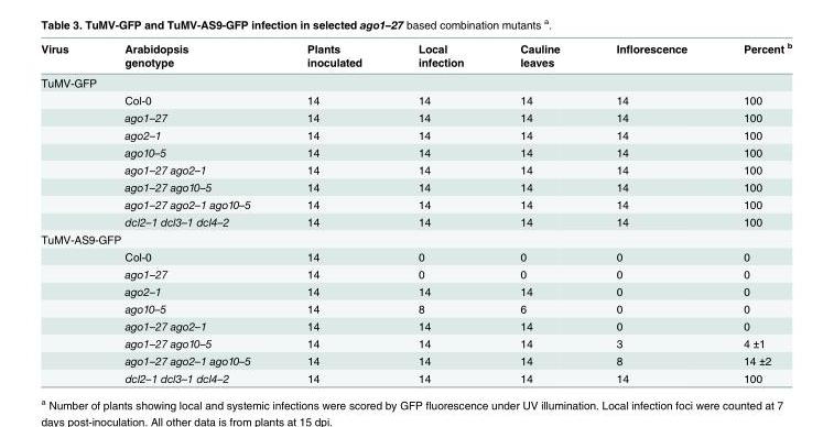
<table><thead><tr><td rowspan="2">Virus</td><td rowspan="2">Arabidopsis genotype</td><td rowspan="2">Plants inoculated</td><td rowspan="2">Local infection</td><td rowspan="2">Cauline leaves</td><td rowspan="2">Inflorescence</td><td rowspan="2">Percent <sup>b</sup></td></tr><tr></tr></thead><tbody><tr><td colspan="7">TuMV-GFP</td></tr><tr><td></td><td>Col-0</td><td>14</td><td>14</td><td>14</td><td>14</td><td>100</td></tr><tr><td></td><td>ago1–27</td><td>14</td><td>14</td><td>14</td><td>14</td><td>100</td></tr><tr><td></td><td>ago2–1</td><td>14</td><td>14</td><td>14</td><td>14</td><td>100</td></tr><tr><td></td><td>ago10–5</td><td>14</td><td>14</td><td>14</td><td>14</td><td>100</td></tr><tr><td></td><td>ago1–27 ago2–1</td><td>14</td><td>14</td><td>14</td><td>14</td><td>100</td></tr><tr><td></td><td>ago1–27 ago10–5</td><td>14</td><td>14</td><td>14</td><td>14</td><td>100</td></tr><tr><td></td><td>ago1–27 ago2–1 ago10–5</td><td>14</td><td>14</td><td>14</td><td>14</td><td>100</td></tr><tr><td></td><td>dcl2–1 dcl3–1 dcl4–2</td><td>14</td><td>14</td><td>14</td><td>14</td><td>100</td></tr><tr><td colspan="7">TuMV-AS9-GFP</td></tr><tr><td></td><td>Col-0</td><td>14</td><td>0</td><td>0</td><td>0</td><td>0</td></tr><tr><td></td><td>ago1–27</td><td>14</td><td>0</td><td>0</td><td>0</td><td>0</td></tr><tr><td></td><td>ago2–1</td><td>14</td><td>14</td><td>14</td><td>0</td><td>0</td></tr><tr><td></td><td>ago10–5</td><td>14</td><td>8</td><td>6</td><td>0</td><td>0</td></tr><tr><td></td><td>ago1–27 ago2–1</td><td>14</td><td>14</td><td>14</td><td>0</td><td>0</td></tr><tr><td></td><td>ago1–27 ago10–5</td><td>14</td><td>14</td><td>14</td><td>3</td><td>4 ±1</td></tr><tr><td></td><td>ago1–27 ago2–1 ago10–5</td><td>14</td><td>14</td><td>14</td><td>8</td><td>14 ±2</td></tr><tr><td></td><td>dcl2–1 dcl3–1 dcl4–2</td><td>14</td><td>14</td><td>14</td><td>14</td><td>100</td></tr></tbody></table>